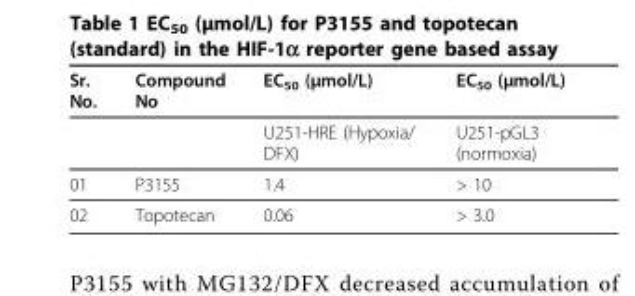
<table><thead><tr><td>Sr. No.</td><td>Compound No</td><td>EC<sub>50</sub> (μmol/L)</td><td>EC<sub>50</sub> (μmol/L)</td></tr></thead><tbody><tr><td></td><td></td><td>U251-HRE (Hypoxia/ DFX)</td><td>U251-pGL3 (normoxia)</td></tr><tr><td>01</td><td>P3155</td><td>1.4</td><td>&gt; 10</td></tr><tr><td>02</td><td>Topotecan</td><td>0.06</td><td>&gt; 3.0</td></tr></tbody></table>